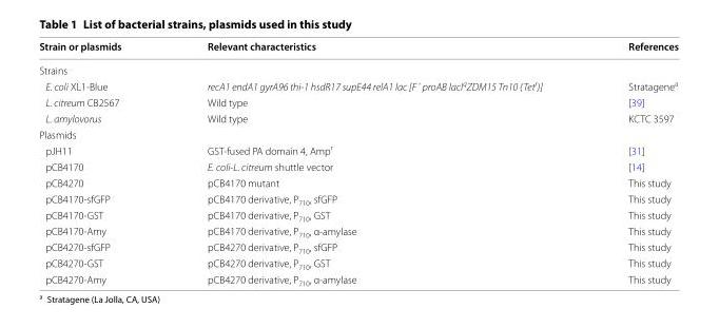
<table><thead><tr><td>Strain or plasmids</td><td>Relevant characteristics</td><td>References</td></tr></thead><tbody><tr><td colspan="3">Strains</td></tr><tr><td>E. coli XL1-Blue</td><td>recA1 endA1 gyrA96 thi-1 hsdR17 supE44 relA1 lac [F´ proAB lacI<sup>q</sup>ZDM15 Tn10 (Tet<sup>r</sup>)]</td><td>Stratagene<sup>a</sup></td></tr><tr><td>L. citreum CB2567</td><td>Wild type</td><td>[39]</td></tr><tr><td>L. amylovorus</td><td>Wild type</td><td>KCTC 3597</td></tr><tr><td colspan="3">Plasmids</td></tr><tr><td>pJH11</td><td>GST-fused PA domain 4, Amp<sup>r</sup></td><td>[31]</td></tr><tr><td>pCB4170</td><td>E. coli-L. citreum shuttle vector</td><td>[14]</td></tr><tr><td>pCB4270</td><td>pCB4170 mutant</td><td>This study</td></tr><tr><td>pCB4170-sfGFP</td><td>pCB4170 derivative, P<sub>710</sub>, sfGFP</td><td>This study</td></tr><tr><td>pCB4170-GST</td><td>pCB4170 derivative, P<sub>710</sub>, GST</td><td>This study</td></tr><tr><td>pCB4170-Amy</td><td>pCB4170 derivative, P<sub>710</sub>, α-amylase</td><td>This study</td></tr><tr><td>pCB4270-sfGFP</td><td>pCB4270 derivative, P<sub>710</sub>, sfGFP</td><td>This study</td></tr><tr><td>pCB4270-GST</td><td>pCB4270 derivative, P<sub>710</sub>, GST</td><td>This study</td></tr><tr><td>pCB4270-Amy</td><td>pCB4270 derivative, P<sub>710</sub>, α-amylase</td><td>This study</td></tr></tbody></table>